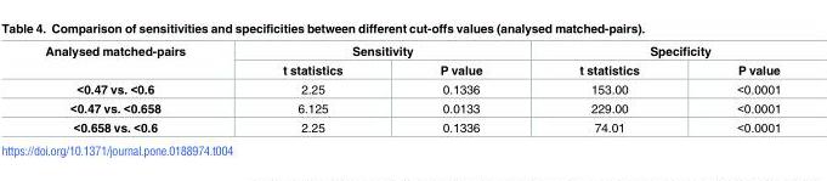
<table><thead><tr><td rowspan="2">Analysed matched-pairs</td><td colspan="2">Sensitivity</td><td colspan="2">Specificity</td></tr><tr><td>t statistics</td><td>P value</td><td>t statistics</td><td>P value</td></tr></thead><tbody><tr><td>&lt;0.47 vs. &lt;0.6</td><td>2.25</td><td>0.1336</td><td>153.00</td><td>&lt;0.0001</td></tr><tr><td>&lt;0.47 vs. &lt;0.658</td><td>6.125</td><td>0.0133</td><td>229.00</td><td>&lt;0.0001</td></tr><tr><td>&lt;0.658 vs. &lt;0.6</td><td>2.25</td><td>0.1336</td><td>74.01</td><td>&lt;0.0001</td></tr></tbody></table>